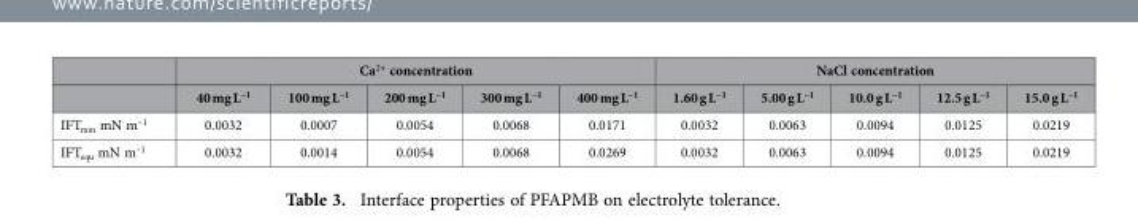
<table><thead><tr><td rowspan="2"></td><td colspan="5">Ca<sup>2+</sup> concentration</td><td colspan="5">NaCl concentration</td></tr><tr><td>40 mg L<sup>−1</sup></td><td>100 mg L<sup>−1</sup></td><td>200 mg L<sup>−1</sup></td><td>300 mg L<sup>−1</sup></td><td>400 mg L<sup>−1</sup></td><td>1.60 g L<sup>−1</sup></td><td>5.00 g L<sup>−1</sup></td><td>10.0 g L<sup>−1</sup></td><td>12.5 g L<sup>−1</sup></td><td>15.0 g L<sup>−1</sup></td></tr></thead><tbody><tr><td>IFT<sub>min</sub> mN m<sup>–1</sup></td><td>0.0032</td><td>0.0007</td><td>0.0054</td><td>0.0068</td><td>0.0171</td><td>0.0032</td><td>0.0063</td><td>0.0094</td><td>0.0125</td><td>0.0219</td></tr><tr><td>IFT<sub>equ</sub> mN m<sup>–1</sup></td><td>0.0032</td><td>0.0014</td><td>0.0054</td><td>0.0068</td><td>0.0269</td><td>0.0032</td><td>0.0063</td><td>0.0094</td><td>0.0125</td><td>0.0219</td></tr></tbody></table>